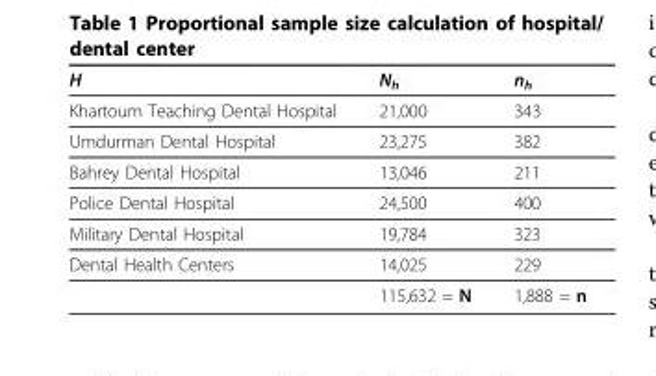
<table><thead><tr><td>H</td><td>N<sub>h</sub></td><td>n<sub>h</sub></td></tr></thead><tbody><tr><td>Khartoum Teaching Dental Hospital</td><td>21,000</td><td>343</td></tr><tr><td>Umdurman Dental Hospital</td><td>23,275</td><td>382</td></tr><tr><td>Bahrey Dental Hospital</td><td>13,046</td><td>211</td></tr><tr><td>Police Dental Hospital</td><td>24,500</td><td>400</td></tr><tr><td>Military Dental Hospital</td><td>19,784</td><td>323</td></tr><tr><td rowspan="2">Dental Health Centers</td><td>14,025</td><td>229</td></tr><tr><td>115,632 = N</td><td>1,888 = n</td></tr></tbody></table>